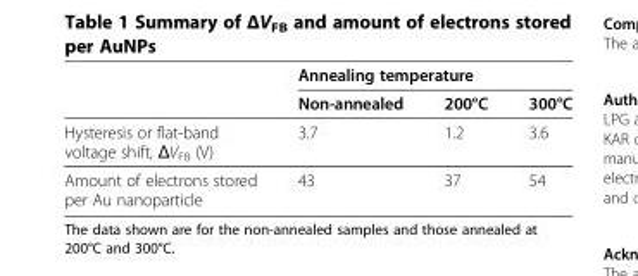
<table><thead><tr><td rowspan="2"></td><td colspan="3">Annealing temperature</td></tr><tr><td>Non-annealed</td><td>200°C</td><td>300°C</td></tr></thead><tbody><tr><td>Hysteresis or flat-band voltage shift, ΔV<sub>FB</sub> (V)</td><td>3.7</td><td>1.2</td><td>3.6</td></tr><tr><td>Amount of electrons stored per Au nanoparticle</td><td>43</td><td>37</td><td>54</td></tr></tbody></table>